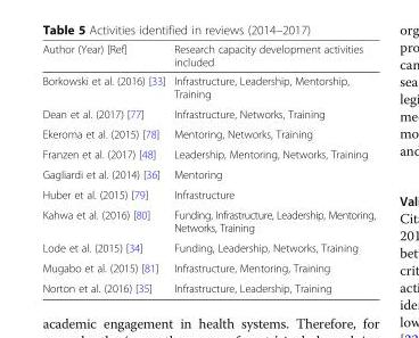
<table><thead><tr><td>Author (Year) [Ref]</td><td>Research capacity development activities included</td></tr></thead><tbody><tr><td>Borkowski et al. (2016) [33]</td><td>Infrastructure, Leadership, Mentorship, Training</td></tr><tr><td>Dean et al. (2017) [77]</td><td>Infrastructure, Networks, Training</td></tr><tr><td>Ekeroma et al. (2015) [78]</td><td>Mentoring, Networks, Training</td></tr><tr><td>Franzen et al. (2017) [48]</td><td>Leadership, Mentoring, Networks, Training</td></tr><tr><td>Gagliardi et al. (2014) [36]</td><td>Mentoring</td></tr><tr><td>Huber et al. (2015) [79]</td><td>Infrastructure</td></tr><tr><td>Kahwa et al. (2016) [80]</td><td>Funding, Infrastructure, Leadership, Mentoring, Networks, Training</td></tr><tr><td>Lode et al. (2015) [34]</td><td>Funding, Leadership, Networks, Training</td></tr><tr><td>Mugabo et al. (2015) [81]</td><td>Infrastructure, Mentoring, Training</td></tr><tr><td>Norton et al. (2016) [35]</td><td>Infrastructure, Leadership, Training</td></tr></tbody></table>